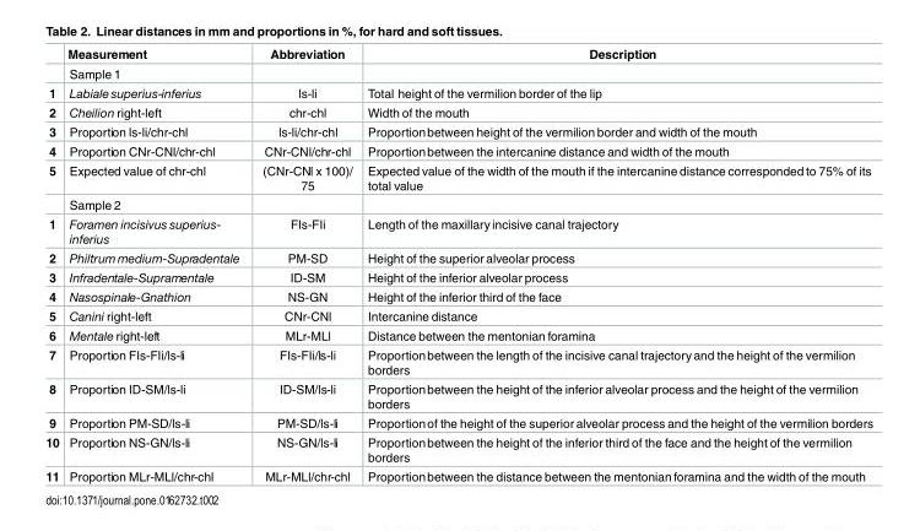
<table><thead><tr><td></td><td>Measurement</td><td>Abbreviation</td><td>Description</td></tr></thead><tbody><tr><td></td><td>Sample 1</td><td></td><td></td></tr><tr><td>1</td><td>Labiale superius-inferius</td><td>ls-li</td><td>Total height of the vermilion border of the lip</td></tr><tr><td>2</td><td>Cheilion right-left</td><td>chr-chl</td><td>Width of the mouth</td></tr><tr><td>3</td><td>Proportion ls-li/chr-chl</td><td>ls-li/chr-chl</td><td>Proportionbetween height of the vermilion border and width of the mouth</td></tr><tr><td>4</td><td>Proportion CNr-CNl/chr-chl</td><td>CNr-CNl/chr-chl</td><td>Proportionbetween the intercanine distance and width of the mouth</td></tr><tr><td rowspan="2">5</td><td>Expected value of chr-chl</td><td>(CNr-CNl x 100)/ 75</td><td>Expected value of the width of the mouth if the intercanine distance corresponded to 75% of its total value</td></tr><tr><td>Sample 2</td><td></td><td></td></tr><tr><td>1</td><td>Foramen incisivus superius- inferius</td><td>FIs-FIi</td><td>Length of the maxillary incisive canal trajectory</td></tr><tr><td>2</td><td>Philtrum medium-Supradentale</td><td>PM-SD</td><td>Height of the superior alveolar process</td></tr><tr><td>3</td><td>Infradentale-Supramentale</td><td>ID-SM</td><td>Height of the inferior alveolar process</td></tr><tr><td>4</td><td>Nasospinale-Gnathion</td><td>NS-GN</td><td>Height of the inferior third of the face</td></tr><tr><td>5</td><td>Canini right-left</td><td>CNr-CNl</td><td>Intercanine distance</td></tr><tr><td>6</td><td>Mentale right-left</td><td>MLr-MLl</td><td>Distance between the mentonian foramina</td></tr><tr><td>7</td><td>Proportion FIs-FIi/ls-li</td><td>FIs-FIi/ls-li</td><td>Proportionbetween the length of the incisive canal trajectoryand the height of the vermilion borders</td></tr><tr><td>8</td><td>Proportion ID-SM/ls-li</td><td>ID-SM/ls-li</td><td>Proportionbetween the height of the inferior alveolar process and the height of the vermilion borders</td></tr><tr><td>9</td><td>Proportion PM-SD/ls-li</td><td>PM-SD/ls-li</td><td>Proportionof the height of the superior alveolar process and the height of the vermilion borders</td></tr><tr><td>10</td><td>Proportion NS-GN/ls-li</td><td>NS-GN/ls-li</td><td>Proportionbetween the height of the inferior third of the face and the height of the vermilion borders</td></tr><tr><td>11</td><td>Proportion MLr-MLl/chr-chl</td><td>MLr-MLl/chr-chl</td><td>Proportionbetween the distance between the mentonian foramina and the width of the mouth</td></tr></tbody></table>